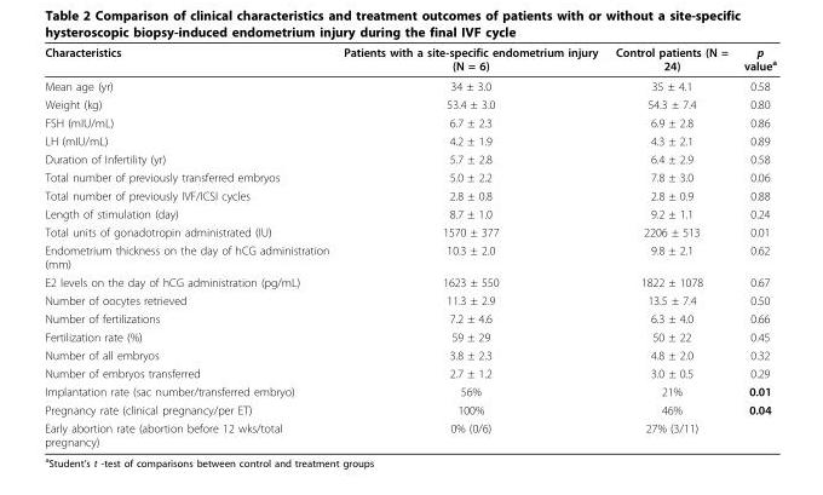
<table><thead><tr><td>Characteristics</td><td>Patients with a site-specific endometrium injury (N = 6)</td><td>Control patients (N = 24)</td><td>p value<sup>a</sup></td></tr></thead><tbody><tr><td>Mean age (yr)</td><td>34 ± 3.0</td><td>35 ± 4.1</td><td>0.58</td></tr><tr><td>Weight (kg)</td><td>53.4 ± 3.0</td><td>54.3 ± 7.4</td><td>0.80</td></tr><tr><td>FSH (mIU/mL)</td><td>6.7 ± 2.3</td><td>6.9 ± 2.8</td><td>0.86</td></tr><tr><td>LH (mIU/mL)</td><td>4.2 ± 1.9</td><td>4.3 ± 2.1</td><td>0.89</td></tr><tr><td>Duration of Infertility (yr)</td><td>5.7 ± 2.8</td><td>6.4 ± 2.9</td><td>0.58</td></tr><tr><td>Total number of previously transferred embryos</td><td>5.0 ± 2.2</td><td>7.8 ± 3.0</td><td>0.06</td></tr><tr><td>Total number of previously IVF/ICSI cycles</td><td>2.8 ± 0.8</td><td>2.8 ± 0.9</td><td>0.88</td></tr><tr><td>Length of stimulation (day)</td><td>8.7 ± 1.0</td><td>9.2 ± 1.1</td><td>0.24</td></tr><tr><td>Total units of gonadotropin administrated (IU)</td><td>1570 ± 377</td><td>2206 ± 513</td><td>0.01</td></tr><tr><td>Endometrium thickness on the day of hCG administration (mm)</td><td>10.3 ± 2.0</td><td>9.8 ± 2.1</td><td>0.62</td></tr><tr><td>E2 levels on the day of hCG administration (pg/mL)</td><td>1623 ± 550</td><td>1822 ± 1078</td><td>0.67</td></tr><tr><td>Number of oocytes retrieved</td><td>11.3 ± 2.9</td><td>13.5 ± 7.4</td><td>0.50</td></tr><tr><td>Number of fertilizations</td><td>7.2 ± 4.6</td><td>6.3 ± 4.0</td><td>0.66</td></tr><tr><td>Fertilization rate (%)</td><td>59 ± 29</td><td>50 ± 22</td><td>0.45</td></tr><tr><td>Number of all embryos</td><td>3.8 ± 2.3</td><td>4.8 ± 2.0</td><td>0.32</td></tr><tr><td>Number of embryos transferred</td><td>2.7 ± 1.2</td><td>3.0 ± 0.5</td><td>0.29</td></tr><tr><td>Implantation rate (sac number/transferred embryo)</td><td>56%</td><td>21%</td><td>0.01</td></tr><tr><td>Pregnancy rate (clinical pregnancy/per ET)</td><td>100%</td><td>46%</td><td>0.04</td></tr><tr><td>Early abortion rate (abortion before 12 wks/total pregnancy)</td><td>0% (0/6)</td><td>27% (3/11)</td><td></td></tr></tbody></table>